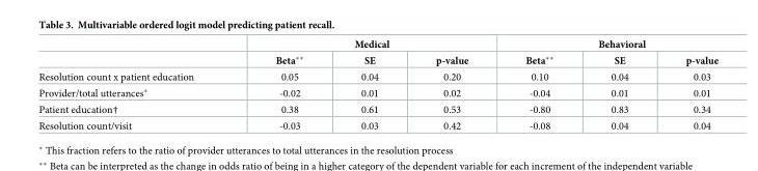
<table><thead><tr><td rowspan="2"></td><td colspan="3">Medical</td><td colspan="3">Behavioral</td></tr><tr><td>Beta**</td><td>SE</td><td>p-value</td><td>Beta**</td><td>SE</td><td>p-value</td></tr></thead><tbody><tr><td>Resolution count x patient education</td><td>0.05</td><td>0.04</td><td>0.20</td><td>0.10</td><td>0.04</td><td>0.03</td></tr><tr><td>Provider/total utterances*</td><td>-0.02</td><td>0.01</td><td>0.02</td><td>-0.04</td><td>0.01</td><td>0.01</td></tr><tr><td>Patient education†</td><td>0.38</td><td>0.61</td><td>0.53</td><td>-0.80</td><td>0.83</td><td>0.34</td></tr><tr><td>Resolution count/visit</td><td>-0.03</td><td>0.03</td><td>0.42</td><td>-0.08</td><td>0.04</td><td>0.04</td></tr></tbody></table>